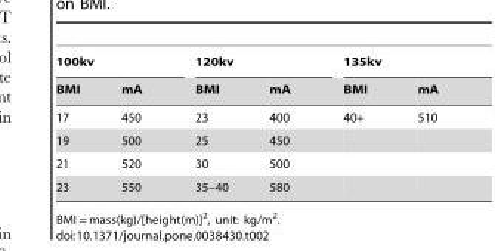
<table><thead><tr><td colspan="2">100kv</td><td colspan="2">120kv</td><td colspan="2">135kv</td></tr><tr><td>BMI</td><td>mA</td><td>BMI</td><td>mA</td><td>BMI</td><td>mA</td></tr></thead><tbody><tr><td>17</td><td>450</td><td>23</td><td>400</td><td>40+</td><td>510</td></tr><tr><td>19</td><td>500</td><td>25</td><td>450</td><td></td><td></td></tr><tr><td>21</td><td>520</td><td>30</td><td>500</td><td></td><td></td></tr><tr><td>23</td><td>550</td><td>35–40</td><td>580</td><td></td><td></td></tr></tbody></table>